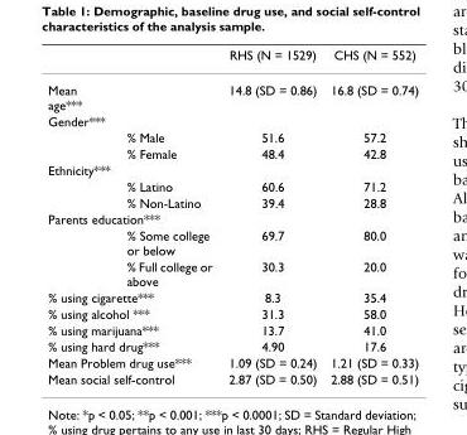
<table><thead><tr><td></td><td></td><td>RHS (N = 1529)</td><td>CHS (N = 552)</td></tr></thead><tbody><tr><td>Mean age***</td><td></td><td>14.8 (SD = 0.86)</td><td>16.8 (SD = 0.74)</td></tr><tr><td colspan="4">Gender***</td></tr><tr><td></td><td>% Male</td><td>51.6</td><td>57.2</td></tr><tr><td></td><td>% Female</td><td>48.4</td><td>42.8</td></tr><tr><td colspan="4">Ethnicity***</td></tr><tr><td></td><td>% Latino</td><td>60.6</td><td>71.2</td></tr><tr><td></td><td>% Non-Latino</td><td>39.4</td><td>28.8</td></tr><tr><td colspan="4">Parents education***</td></tr><tr><td></td><td>% Some college or below</td><td>69.7</td><td>80.0</td></tr><tr><td></td><td>% Full college or above</td><td>30.3</td><td>20.0</td></tr><tr><td colspan="2">% using cigarette***</td><td>8.3</td><td>35.4</td></tr><tr><td colspan="2">% using alcohol ***</td><td>31.3</td><td>58.0</td></tr><tr><td colspan="2">% using marijuana***</td><td>13.7</td><td>41.0</td></tr><tr><td colspan="2">% using hard drug***</td><td>4.90</td><td>17.6</td></tr><tr><td colspan="2">Mean Problem drug use***</td><td>1.09 (SD = 0.24)</td><td>1.21 (SD = 0.33)</td></tr><tr><td colspan="2">Mean social self-control</td><td>2.87 (SD = 0.50)</td><td>2.88 (SD = 0.51)</td></tr></tbody></table>